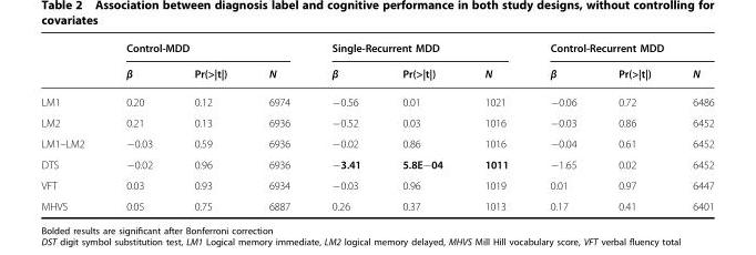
<table><thead><tr><td rowspan="2"></td><td colspan="3">Control-MDD</td><td colspan="3">Single-Recurrent MDD</td><td colspan="3">Control-Recurrent MDD</td></tr><tr><td>β</td><td>Pr(&gt;|t|)</td><td>N</td><td>β</td><td>Pr(&gt;|t|)</td><td>N</td><td>β</td><td>Pr(&gt;|t|)</td><td>N</td></tr></thead><tbody><tr><td>LM1</td><td>0.20</td><td>0.12</td><td>6974</td><td>−0.56</td><td>0.01</td><td>1021</td><td>−0.06</td><td>0.72</td><td>6486</td></tr><tr><td>LM2</td><td>0.21</td><td>0.13</td><td>6936</td><td>−0.52</td><td>0.03</td><td>1016</td><td>−0.03</td><td>0.86</td><td>6452</td></tr><tr><td>LM1–LM2</td><td>−0.03</td><td>0.59</td><td>6936</td><td>−0.02</td><td>0.86</td><td>1016</td><td>−0.04</td><td>0.61</td><td>6452</td></tr><tr><td>DTS</td><td>−0.02</td><td>0.96</td><td>6936</td><td>−3.41</td><td>5.8E−04</td><td>1011</td><td>−1.65</td><td>0.02</td><td>6452</td></tr><tr><td>VFT</td><td>0.03</td><td>0.93</td><td>6934</td><td>−0.03</td><td>0.96</td><td>1019</td><td>0.01</td><td>0.97</td><td>6447</td></tr><tr><td>MHVS</td><td>0.05</td><td>0.75</td><td>6887</td><td>0.26</td><td>0.37</td><td>1013</td><td>0.17</td><td>0.41</td><td>6401</td></tr></tbody></table>